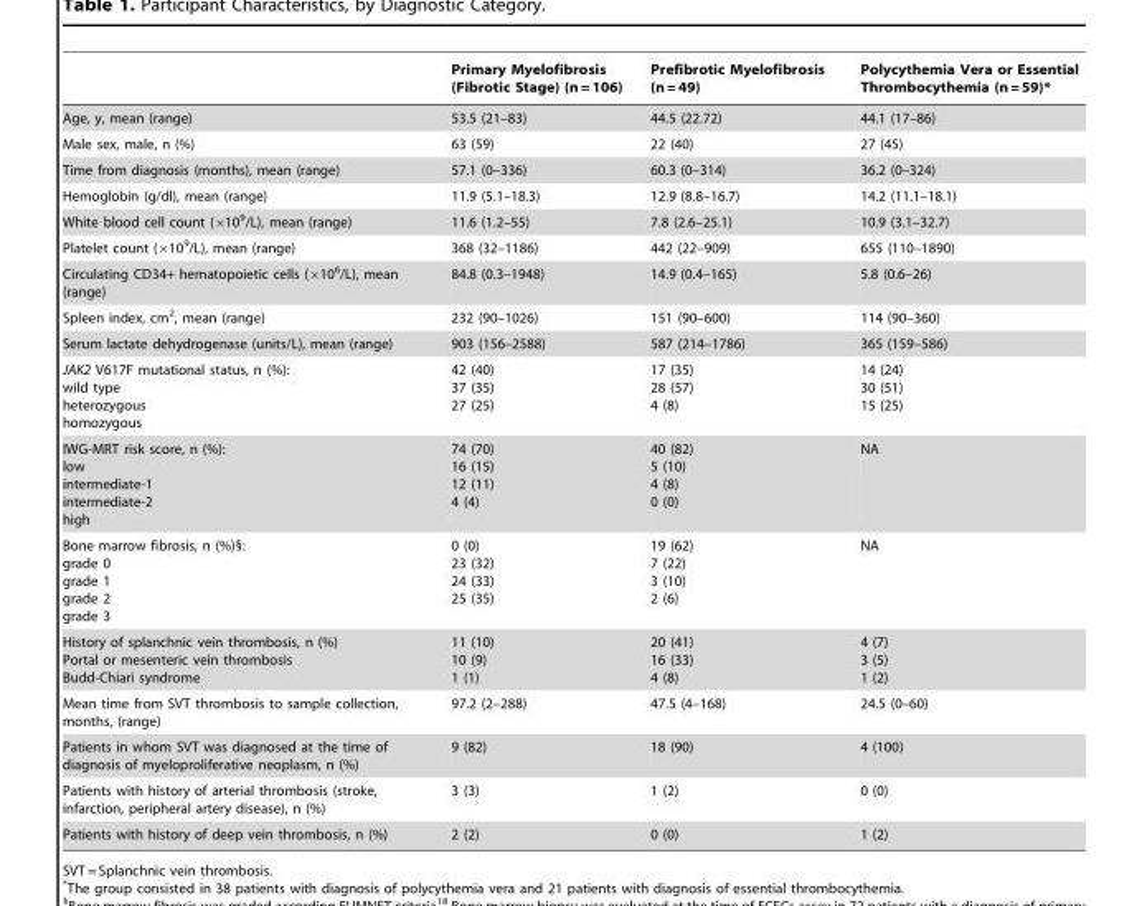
<table><thead><tr><td></td><td>Primary Myelofibrosis (Fibrotic Stage) (n = 106)</td><td>Prefibrotic Myelofibrosis (n = 49)</td><td>Polycythemia Vera or Essential Thrombocythemia (n = 59)*</td></tr></thead><tbody><tr><td>Age, y, mean (range)</td><td>53.5 (21–83)</td><td>44.5 (22.72)</td><td>44.1 (17–86)</td></tr><tr><td>Male sex, male, n (%)</td><td>63 (59)</td><td>22 (40)</td><td>27 (45)</td></tr><tr><td>Time from diagnosis (months), mean (range)</td><td>57.1 (0–336)</td><td>60.3 (0–314)</td><td>36.2 (0–324)</td></tr><tr><td>Hemoglobin (g/dl), mean (range)</td><td>11.9 (5.1–18.3)</td><td>12.9 (8.8–16.7)</td><td>14.2 (11.1–18.1)</td></tr><tr><td>White blood cell count (×10<sup>9</sup>/L), mean (range)</td><td>11.6 (1.2–55)</td><td>7.8 (2.6–25.1)</td><td>10.9 (3.1–32.7)</td></tr><tr><td>Platelet count (×10<sup>9</sup>/L), mean (range)</td><td>368 (32–1186)</td><td>442 (22–909)</td><td>655 (110–1890)</td></tr><tr><td>Circulating CD34+ hematopoietic cells (×10<sup>6</sup>/L), mean (range)</td><td>84.8 (0.3–1948)</td><td>14.9 (0.4–165)</td><td>5.8 (0.6–26)</td></tr><tr><td>Spleen index, cm<sup>2</sup>, mean (range)</td><td>232 (90–1026)</td><td>151 (90–600)</td><td>114 (90–360)</td></tr><tr><td>Serum lactate dehydrogenase (units/L), mean (range)</td><td>903 (156–2588)</td><td>587 (214–1786)</td><td>365 (159–586)</td></tr><tr><td>JAK2 V617F mutational status, n (%): wild type heterozygous homozygous</td><td>42 (40) 37 (35) 27 (25)</td><td>17 (35) 28 (57) 4 (8)</td><td>14 (24) 30 (51) 15 (25)</td></tr><tr><td>IWG-MRT risk score, n (%): low intermediate-1 intermediate-2 high</td><td>74 (70) 16 (15) 12 (11) 4 (4)</td><td>40 (82) 5 (10) 4 (8) 0 (0)</td><td>NA</td></tr><tr><td>Bone marrow fibrosis, n (%)§: grade 0 grade 1 grade 2 grade 3</td><td>0 (0) 23 (32) 24 (33) 25 (35)</td><td>19 (62) 7 (22) 3 (10) 2 (6)</td><td>NA</td></tr><tr><td>History of splanchnic vein thrombosis, n (%) Portal or mesenteric vein thrombosis Budd-Chiari syndrome</td><td>11 (10) 10 (9) 1 (1)</td><td>20 (41) 16 (33) 4 (8)</td><td>4 (7) 3 (5) 1 (2)</td></tr><tr><td>Mean time from SVT thrombosis to sample collection, months, (range)</td><td>97.2 (2–288)</td><td>47.5 (4–168)</td><td>24.5 (0–60)</td></tr><tr><td>Patients in whom SVT was diagnosed at the time of diagnosis of myeloproliferative neoplasm, n (%)</td><td>9 (82)</td><td>18 (90)</td><td>4 (100)</td></tr><tr><td>Patients with history of arterial thrombosis (stroke, infarction, peripheral artery disease), n (%)</td><td>3 (3)</td><td>1 (2)</td><td>0 (0)</td></tr><tr><td>Patients with history of deep vein thrombosis, n (%)</td><td>2 (2)</td><td>0 (0)</td><td>1 (2)</td></tr></tbody></table>